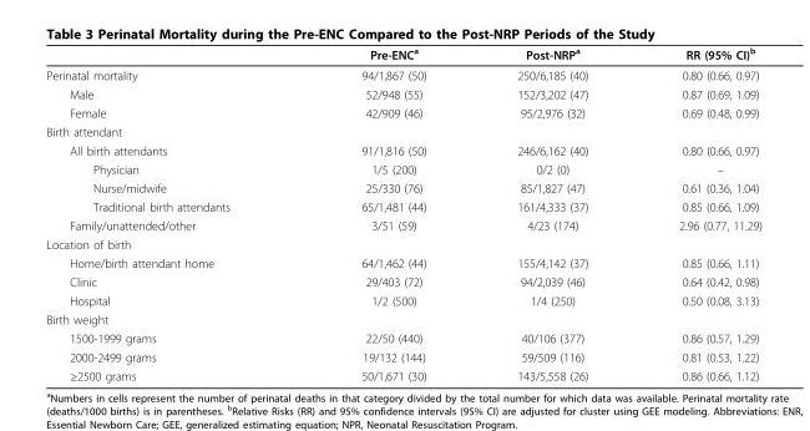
<table><thead><tr><td></td><td>Pre-ENC<sup>a</sup></td><td>Post-NRP<sup>a</sup></td><td>RR (95% CI)<sup>b</sup></td></tr></thead><tbody><tr><td>Perinatal mortality</td><td>94/1,867 (50)</td><td>250/6,185 (40)</td><td>0.80 (0.66, 0.97)</td></tr><tr><td>Male</td><td>52/948 (55)</td><td>152/3,202 (47)</td><td>0.87 (0.69, 1.09)</td></tr><tr><td>Female</td><td>42/909 (46)</td><td>95/2,976 (32)</td><td>0.69 (0.48, 0.99)</td></tr><tr><td colspan="4">Birth attendant</td></tr><tr><td>All birth attendants</td><td>91/1,816 (50)</td><td>246/6,162 (40)</td><td>0.80 (0.66, 0.97)</td></tr><tr><td>Physician</td><td>1/5 (200)</td><td>0/2 (0)</td><td>–</td></tr><tr><td>Nurse/midwife</td><td>25/330 (76)</td><td>85/1,827 (47)</td><td>0.61 (0.36, 1.04)</td></tr><tr><td>Traditional birth attendants</td><td>65/1,481 (44)</td><td>161/4,333 (37)</td><td>0.85 (0.66, 1.09)</td></tr><tr><td>Family/unattended/other</td><td>3/51 (59)</td><td>4/23 (174)</td><td>2.96 (0.77, 11.29)</td></tr><tr><td colspan="4">Location of birth</td></tr><tr><td>Home/birth attendant home</td><td>64/1,462 (44)</td><td>155/4,142 (37)</td><td>0.85 (0.66, 1.11)</td></tr><tr><td>Clinic</td><td>29/403 (72)</td><td>94/2,039 (46)</td><td>0.64 (0.42, 0.98)</td></tr><tr><td>Hospital</td><td>1/2 (500)</td><td>1/4 (250)</td><td>0.50 (0.08, 3.13)</td></tr><tr><td colspan="4">Birth weight</td></tr><tr><td>1500-1999 grams</td><td>22/50 (440)</td><td>40/106 (377)</td><td>0.86 (0.57, 1.29)</td></tr><tr><td>2000-2499 grams</td><td>19/132 (144)</td><td>59/509 (116)</td><td>0.81 (0.53, 1.22)</td></tr><tr><td>≥2500 grams</td><td>50/1,671 (30)</td><td>143/5,558 (26)</td><td>0.86 (0.66, 1.12)</td></tr></tbody></table>